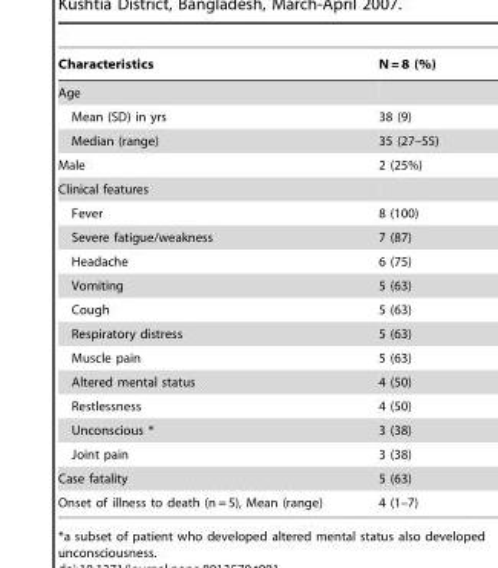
<table><thead><tr><td>Characteristics</td><td>N = 8 (%)</td></tr></thead><tbody><tr><td colspan="2">Age</td></tr><tr><td>Mean (SD) in yrs</td><td>38 (9)</td></tr><tr><td>Median (range)</td><td>35 (27–55)</td></tr><tr><td>Male</td><td>2 (25%)</td></tr><tr><td colspan="2">Clinical features</td></tr><tr><td>Fever</td><td>8 (100)</td></tr><tr><td>Severe fatigue/weakness</td><td>7 (87)</td></tr><tr><td>Headache</td><td>6 (75)</td></tr><tr><td>Vomiting</td><td>5 (63)</td></tr><tr><td>Cough</td><td>5 (63)</td></tr><tr><td>Respiratory distress</td><td>5 (63)</td></tr><tr><td>Muscle pain</td><td>5 (63)</td></tr><tr><td>Altered mental status</td><td>4 (50)</td></tr><tr><td>Restlessness</td><td>4 (50)</td></tr><tr><td>Unconscious *</td><td>3 (38)</td></tr><tr><td>Joint pain</td><td>3 (38)</td></tr><tr><td>Case fatality</td><td>5 (63)</td></tr><tr><td>Onset of illness to death (n = 5), Mean (range)</td><td>4 (1–7)</td></tr></tbody></table>